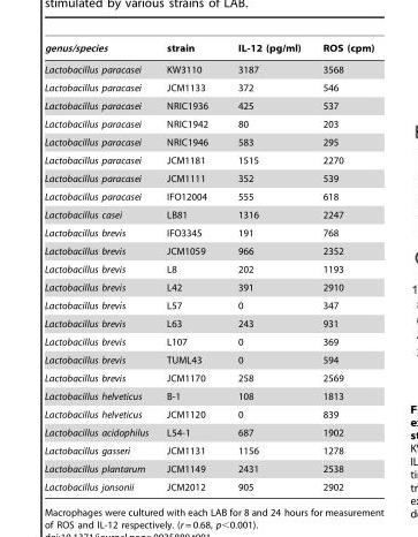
<table><thead><tr><td>genus/species</td><td>strain</td><td>IL-12 (pg/ml)</td><td>ROS (cpm)</td></tr></thead><tbody><tr><td>Lactobacillus paracasei</td><td>KW3110</td><td>3187</td><td>3568</td></tr><tr><td>Lactobacillus paracasei</td><td>JCM1133</td><td>372</td><td>546</td></tr><tr><td>Lactobacillus paracasei</td><td>NRIC1936</td><td>425</td><td>537</td></tr><tr><td>Lactobacillus paracasei</td><td>NRIC1942</td><td>80</td><td>203</td></tr><tr><td>Lactobacillus paracasei</td><td>NRIC1946</td><td>583</td><td>295</td></tr><tr><td>Lactobacillus paracasei</td><td>JCM1181</td><td>1515</td><td>2270</td></tr><tr><td>Lactobacillus paracasei</td><td>JCM1111</td><td>352</td><td>539</td></tr><tr><td>Lactobacillus paracasei</td><td>IFO12004</td><td>555</td><td>618</td></tr><tr><td>Lactobacillus casei</td><td>LB81</td><td>1316</td><td>2247</td></tr><tr><td>Lactobacillus brevis</td><td>IFO3345</td><td>191</td><td>768</td></tr><tr><td>Lactobacillus brevis</td><td>JCM1059</td><td>966</td><td>2352</td></tr><tr><td>Lactobacillus brevis</td><td>L8</td><td>202</td><td>1193</td></tr><tr><td>Lactobacillus brevis</td><td>L42</td><td>391</td><td>2910</td></tr><tr><td>Lactobacillus brevis</td><td>L57</td><td>0</td><td>347</td></tr><tr><td>Lactobacillus brevis</td><td>L63</td><td>243</td><td>931</td></tr><tr><td>Lactobacillus brevis</td><td>L107</td><td>0</td><td>369</td></tr><tr><td>Lactobacillus brevis</td><td>TUML43</td><td>0</td><td>594</td></tr><tr><td>Lactobacillus brevis</td><td>JCM1170</td><td>258</td><td>2569</td></tr><tr><td>Lactobacillus helveticus</td><td>B-1</td><td>108</td><td>1813</td></tr><tr><td>Lactobacillus helveticus</td><td>JCM1120</td><td>0</td><td>839</td></tr><tr><td>Lactobacillus acidophilus</td><td>L54-1</td><td>687</td><td>1902</td></tr><tr><td>Lactobacillus gasseri</td><td>JCM1131</td><td>1156</td><td>1278</td></tr><tr><td>Lactobacillus plantarum</td><td>JCM1149</td><td>2431</td><td>2538</td></tr><tr><td>Lactobacillus jonsonii</td><td>JCM2012</td><td>905</td><td>2902</td></tr></tbody></table>